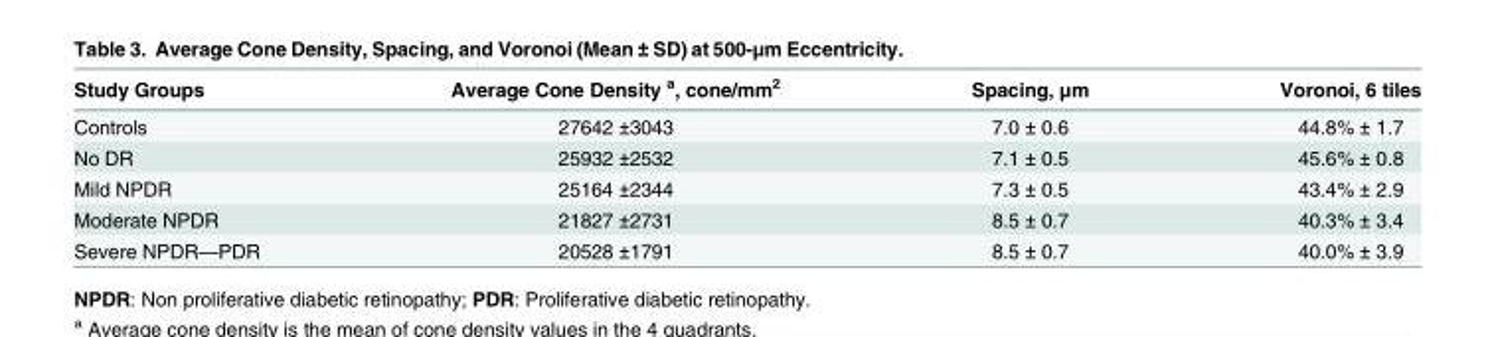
<table><thead><tr><td>Study Groups</td><td>Average Cone Density <sup>a</sup>, cone/mm<sup>2</sup></td><td>Spacing, μm</td><td>Voronoi, 6 tiles</td></tr></thead><tbody><tr><td>Controls</td><td>27642 ±3043</td><td>7.0 ± 0.6</td><td>44.8% ± 1.7</td></tr><tr><td>No DR</td><td>25932 ±2532</td><td>7.1 ± 0.5</td><td>45.6% ± 0.8</td></tr><tr><td>Mild NPDR</td><td>25164 ±2344</td><td>7.3 ± 0.5</td><td>43.4% ± 2.9</td></tr><tr><td>Moderate NPDR</td><td>21827 ±2731</td><td>8.5 ± 0.7</td><td>40.3% ± 3.4</td></tr><tr><td>Severe NPDR—PDR</td><td>20528 ±1791</td><td>8.5 ± 0.7</td><td>40.0% ± 3.9</td></tr></tbody></table>